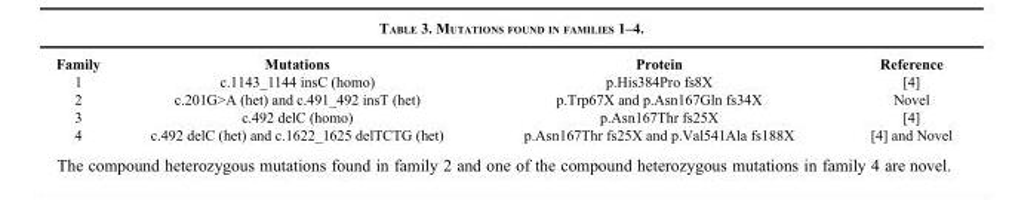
<table><thead><tr><td>Family</td><td>Mutations</td><td>Protein</td><td>Reference</td></tr></thead><tbody><tr><td>1</td><td>c.1143_1144 insC (homo)</td><td>p.His384Pro fs8X</td><td>[4]</td></tr><tr><td>2</td><td>c.201G&gt;A (het) and c.491_492 insT (het)</td><td>p.Trp67X and p.Asn167Gln fs34X</td><td>Novel</td></tr><tr><td>3</td><td>c.492 delC (homo)</td><td>p.Asn167Thr fs25X</td><td>[4]</td></tr><tr><td>4</td><td>c.492 delC (het) and c.1622_1625 delTCTG (het)</td><td>p.Asn167Thr fs25X and p.Val541Ala fs188X</td><td>[4] and Novel</td></tr></tbody></table>